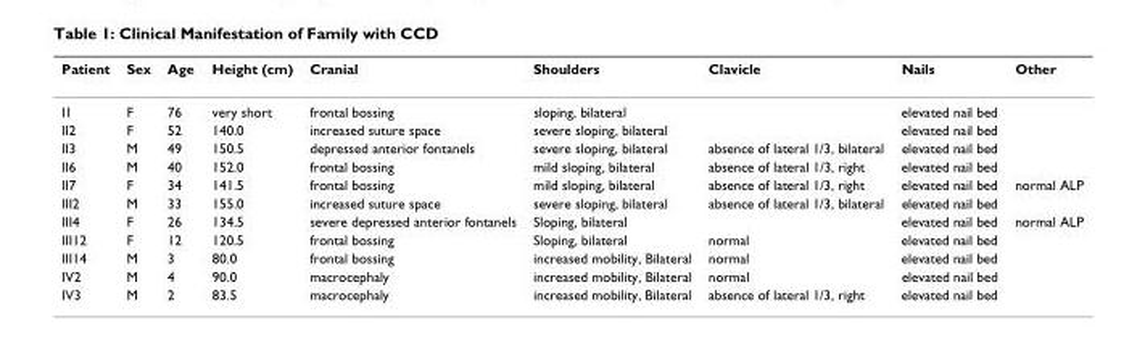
<table><thead><tr><td>Patient</td><td>Sex</td><td>Age</td><td>Height (cm)</td><td>Cranial</td><td>Shoulders</td><td>Clavicle</td><td>Nails</td><td>Other</td></tr></thead><tbody><tr><td>I1</td><td>F</td><td>76</td><td>very short</td><td>frontal bossing</td><td>sloping, bilateral</td><td></td><td>elevated nail bed</td><td></td></tr><tr><td>II2</td><td>F</td><td>52</td><td>140.0</td><td>increased suture space</td><td>severe sloping, bilateral</td><td></td><td>elevated nail bed</td><td></td></tr><tr><td>II3</td><td>M</td><td>49</td><td>150.5</td><td>depressed anterior fontanels</td><td>severe sloping, bilateral</td><td>absence of lateral 1/3, bilateral</td><td>elevated nail bed</td><td></td></tr><tr><td>II6</td><td>M</td><td>40</td><td>152.0</td><td>frontal bossing</td><td>mild sloping, bilateral</td><td>absence of lateral 1/3, right</td><td>elevated nail bed</td><td></td></tr><tr><td>II7</td><td>F</td><td>34</td><td>141.5</td><td>frontal bossing</td><td>mild sloping, bilateral</td><td>absence of lateral 1/3, right</td><td>elevated nail bed</td><td>normal ALP</td></tr><tr><td>III2</td><td>M</td><td>33</td><td>155.0</td><td>increased suture space</td><td>severe sloping, bilateral</td><td>absence of lateral 1/3, bilateral</td><td>elevated nail bed</td><td></td></tr><tr><td>III4</td><td>F</td><td>26</td><td>134.5</td><td>severe depressed anterior fontanels</td><td>Sloping, bilateral</td><td></td><td>elevated nail bed</td><td>normal ALP</td></tr><tr><td>III12</td><td>F</td><td>12</td><td>120.5</td><td>frontal bossing</td><td>Sloping, bilateral</td><td>normal</td><td>elevated nail bed</td><td></td></tr><tr><td>III14</td><td>M</td><td>3</td><td>80.0</td><td>frontal bossing</td><td>increased mobility, Bilateral</td><td>normal</td><td>elevated nail bed</td><td></td></tr><tr><td>IV2</td><td>M</td><td>4</td><td>90.0</td><td>macrocephaly</td><td>increased mobility, Bilateral</td><td>normal</td><td>elevated nail bed</td><td></td></tr><tr><td>IV3</td><td>M</td><td>2</td><td>83.5</td><td>macrocephaly</td><td>increased mobility, Bilateral</td><td>absence of lateral 1/3, right</td><td>elevated nail bed</td><td></td></tr></tbody></table>